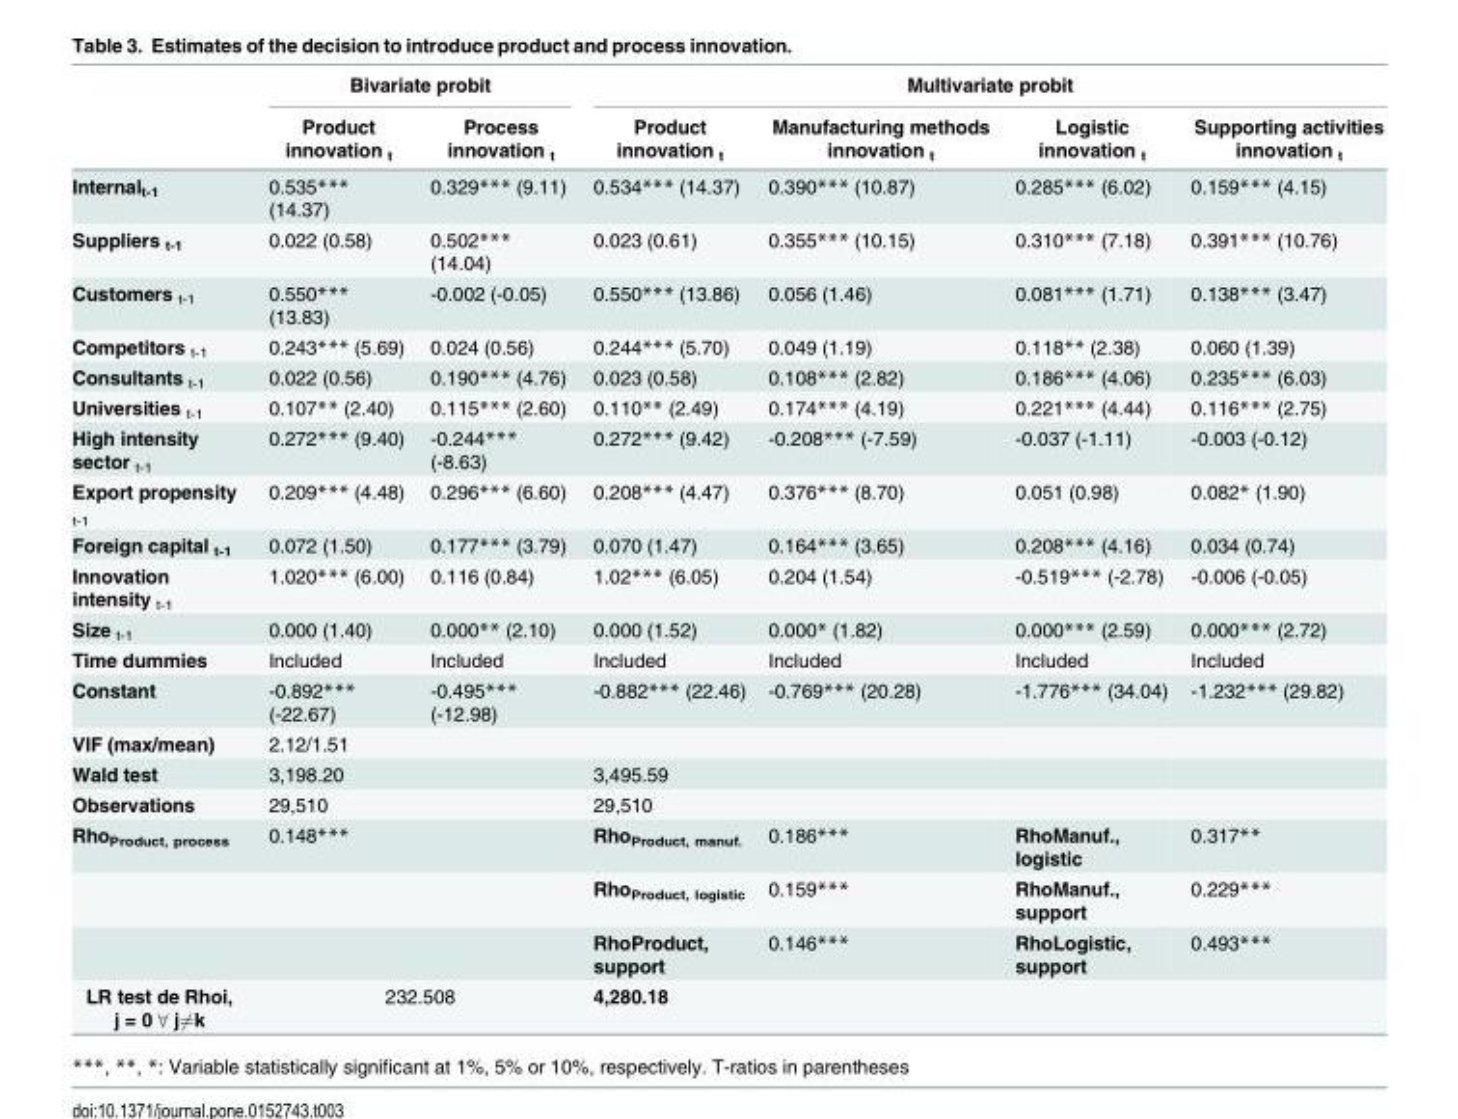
<table><thead><tr><td rowspan="2"></td><td colspan="2">Bivariate probit</td><td colspan="4">Multivariate probit</td></tr><tr><td>Product innovation <sub>t</sub></td><td>Process innovation <sub>t</sub></td><td>Product innovation <sub>t</sub></td><td>Manufacturing methods innovation <sub>t</sub></td><td>Logistic innovation <sub>t</sub></td><td>Supporting activities innovation <sub>t</sub></td></tr></thead><tbody><tr><td>Internal<sub>t-1</sub></td><td>0.535*** (14.37)</td><td>0.329*** (9.11)</td><td>0.534*** (14.37)</td><td>0.390*** (10.87)</td><td>0.285*** (6.02)</td><td>0.159*** (4.15)</td></tr><tr><td>Suppliers <sub>t-1</sub></td><td>0.022 (0.58)</td><td>0.502*** (14.04)</td><td>0.023 (0.61)</td><td>0.355*** (10.15)</td><td>0.310*** (7.18)</td><td>0.391*** (10.76)</td></tr><tr><td>Customers <sub>t-1</sub></td><td>0.550*** (13.83)</td><td>-0.002 (-0.05)</td><td>0.550*** (13.86)</td><td>0.056 (1.46)</td><td>0.081*** (1.71)</td><td>0.138*** (3.47)</td></tr><tr><td>Competitors <sub>t-1</sub></td><td>0.243*** (5.69)</td><td>0.024 (0.56)</td><td>0.244*** (5.70)</td><td>0.049 (1.19)</td><td>0.118** (2.38)</td><td>0.060 (1.39)</td></tr><tr><td>Consultants <sub>t-1</sub></td><td>0.022 (0.56)</td><td>0.190*** (4.76)</td><td>0.023 (0.58)</td><td>0.108*** (2.82)</td><td>0.186*** (4.06)</td><td>0.235*** (6.03)</td></tr><tr><td>Universities <sub>t-1</sub></td><td>0.107** (2.40)</td><td>0.115*** (2.60)</td><td>0.110** (2.49)</td><td>0.174*** (4.19)</td><td>0.221*** (4.44)</td><td>0.116*** (2.75)</td></tr><tr><td>High intensity sector <sub>t-1</sub></td><td>0.272*** (9.40)</td><td>-0.244*** (-8.63)</td><td>0.272*** (9.42)</td><td>-0.208*** (-7.59)</td><td>-0.037 (-1.11)</td><td>-0.003 (-0.12)</td></tr><tr><td>Export propensity <sub>t-1</sub></td><td>0.209*** (4.48)</td><td>0.296*** (6.60)</td><td>0.208*** (4.47)</td><td>0.376*** (8.70)</td><td>0.051 (0.98)</td><td>0.082* (1.90)</td></tr><tr><td>Foreign capital <sub>t-1</sub></td><td>0.072 (1.50)</td><td>0.177*** (3.79)</td><td>0.070 (1.47)</td><td>0.164*** (3.65)</td><td>0.208*** (4.16)</td><td>0.034 (0.74)</td></tr><tr><td>Innovation intensity <sub>t-1</sub></td><td>1.020*** (6.00)</td><td>0.116 (0.84)</td><td>1.02*** (6.05)</td><td>0.204 (1.54)</td><td>-0.519*** (-2.78)</td><td>-0.006 (-0.05)</td></tr><tr><td>Size <sub>t-1</sub></td><td>0.000 (1.40)</td><td>0.000** (2.10)</td><td>0.000 (1.52)</td><td>0.000* (1.82)</td><td>0.000*** (2.59)</td><td>0.000*** (2.72)</td></tr><tr><td>Time dummies</td><td>Included</td><td>Included</td><td>Included</td><td>Included</td><td>Included</td><td>Included</td></tr><tr><td>Constant</td><td>-0.892*** (-22.67)</td><td>-0.495*** (-12.98)</td><td>-0.882*** (22.46)</td><td>-0.769*** (20.28)</td><td>-1.776*** (34.04)</td><td>-1.232*** (29.82)</td></tr><tr><td>VIF (max/mean)</td><td>2.12/1.51</td><td></td><td></td><td></td><td></td><td></td></tr><tr><td>Wald test</td><td>3,198.20</td><td></td><td>3,495.59</td><td></td><td></td><td></td></tr><tr><td>Observations</td><td>29,510</td><td></td><td>29,510</td><td></td><td></td><td></td></tr><tr><td rowspan="3">Rho<sub>Product, process</sub></td><td>0.148***</td><td></td><td>Rho<sub>Product, manuf.</sub></td><td>0.186***</td><td>RhoManuf., logistic</td><td>0.317**</td></tr><tr><td></td><td></td><td>Rho<sub>Product, logistic</sub></td><td>0.159***</td><td>RhoManuf., support</td><td>0.229***</td></tr><tr><td></td><td></td><td>RhoProduct, support</td><td>0.146***</td><td>RhoLogistic, support</td><td>0.493***</td></tr><tr><td>LR test de Rhoi, j = 0 8 j6¼k</td><td colspan="2">232.508</td><td>4,280.18</td><td></td><td></td><td></td></tr></tbody></table>